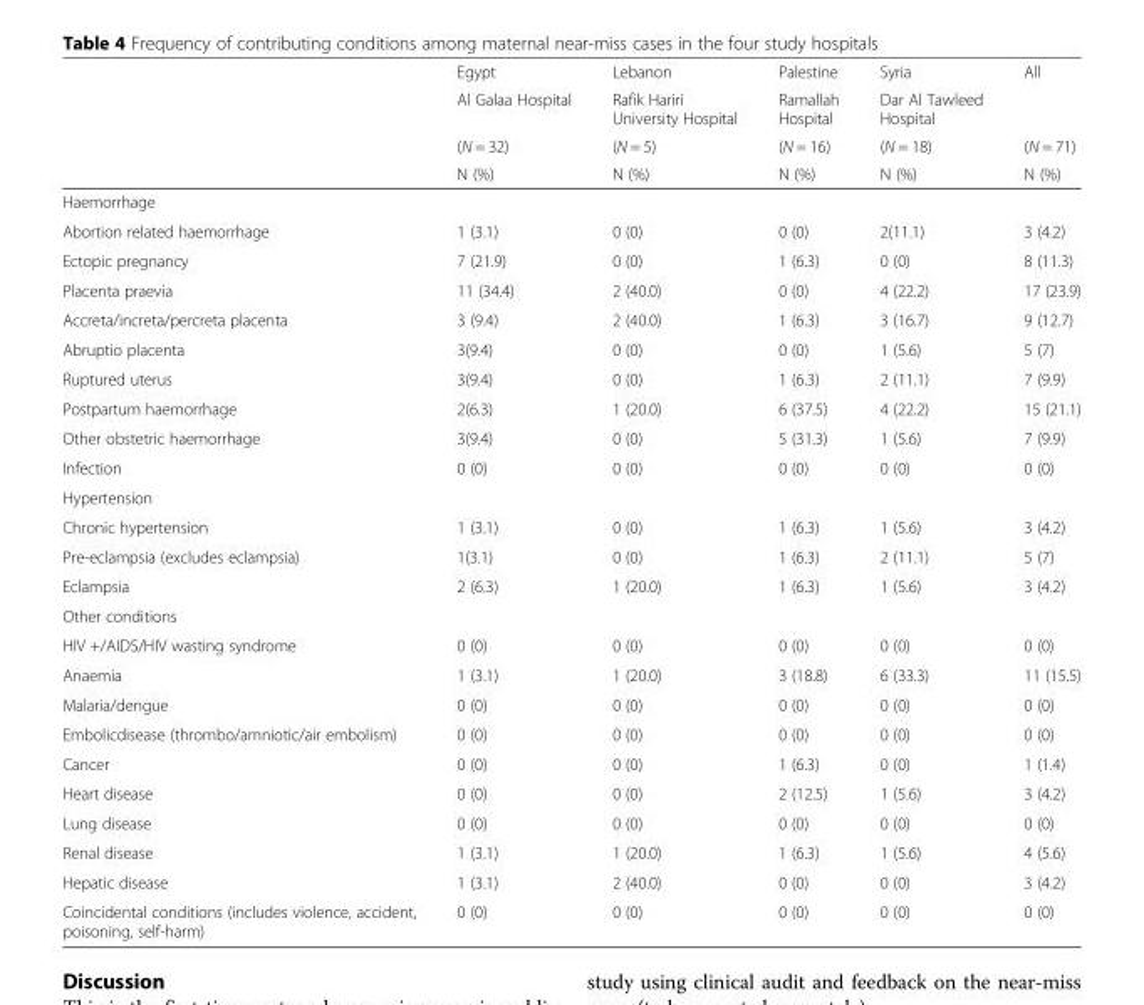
<table><thead><tr><td rowspan="4"></td><td rowspan="4">Egypt Al Galaa Hospital (N = 32) N (%)</td><td rowspan="4">Lebanon Rafik Hariri University Hospital (N = 5) N (%)</td><td rowspan="4">Palestine Ramallah Hospital (N = 16) N (%)</td><td rowspan="4">Syria Dar Al Tawleed Hospital (N = 18) N (%)</td><td rowspan="4">All (N = 71) N (%)</td></tr><tr></tr><tr></tr><tr></tr></thead><tbody><tr><td colspan="6">Haemorrhage</td></tr><tr><td>Abortion related haemorrhage</td><td>1 (3.1)</td><td>0 (0)</td><td>0 (0)</td><td>2(11.1)</td><td>3 (4.2)</td></tr><tr><td>Ectopic pregnancy</td><td>7 (21.9)</td><td>0 (0)</td><td>1 (6.3)</td><td>0 (0)</td><td>8 (11.3)</td></tr><tr><td>Placenta praevia</td><td>11 (34.4)</td><td>2 (40.0)</td><td>0 (0)</td><td>4 (22.2)</td><td>17 (23.9)</td></tr><tr><td>Accreta/increta/percreta placenta</td><td>3 (9.4)</td><td>2 (40.0)</td><td>1 (6.3)</td><td>3 (16.7)</td><td>9 (12.7)</td></tr><tr><td>Abruptio placenta</td><td>3(9.4)</td><td>0 (0)</td><td>0 (0)</td><td>1 (5.6)</td><td>5 (7)</td></tr><tr><td>Ruptured uterus</td><td>3(9.4)</td><td>0 (0)</td><td>1 (6.3)</td><td>2 (11.1)</td><td>7 (9.9)</td></tr><tr><td>Postpartum haemorrhage</td><td>2(6.3)</td><td>1 (20.0)</td><td>6 (37.5)</td><td>4 (22.2)</td><td>15 (21.1)</td></tr><tr><td>Other obstetric haemorrhage</td><td>3(9.4)</td><td>0 (0)</td><td>5 (31.3)</td><td>1 (5.6)</td><td>7 (9.9)</td></tr><tr><td>Infection</td><td>0 (0)</td><td>0 (0)</td><td>0 (0)</td><td>0 (0)</td><td>0 (0)</td></tr><tr><td colspan="6">Hypertension</td></tr><tr><td>Chronic hypertension</td><td>1 (3.1)</td><td>0 (0)</td><td>1 (6.3)</td><td>1 (5.6)</td><td>3 (4.2)</td></tr><tr><td>Pre-eclampsia (excludes eclampsia)</td><td>1(3.1)</td><td>0 (0)</td><td>1 (6.3)</td><td>2 (11.1)</td><td>5 (7)</td></tr><tr><td>Eclampsia</td><td>2 (6.3)</td><td>1 (20.0)</td><td>1 (6.3)</td><td>1 (5.6)</td><td>3 (4.2)</td></tr><tr><td colspan="6">Other conditions</td></tr><tr><td>HIV +/AIDS/HIV wasting syndrome</td><td>0 (0)</td><td>0 (0)</td><td>0 (0)</td><td>0 (0)</td><td>0 (0)</td></tr><tr><td>Anaemia</td><td>1 (3.1)</td><td>1 (20.0)</td><td>3 (18.8)</td><td>6 (33.3)</td><td>11 (15.5)</td></tr><tr><td>Malaria/dengue</td><td>0 (0)</td><td>0 (0)</td><td>0 (0)</td><td>0 (0)</td><td>0 (0)</td></tr><tr><td>Embolicdisease (thrombo/amniotic/air embolism)</td><td>0 (0)</td><td>0 (0)</td><td>0 (0)</td><td>0 (0)</td><td>0 (0)</td></tr><tr><td>Cancer</td><td>0 (0)</td><td>0 (0)</td><td>1 (6.3)</td><td>0 (0)</td><td>1 (1.4)</td></tr><tr><td>Heart disease</td><td>0 (0)</td><td>0 (0)</td><td>2 (12.5)</td><td>1 (5.6)</td><td>3 (4.2)</td></tr><tr><td>Lung disease</td><td>0 (0)</td><td>0 (0)</td><td>0 (0)</td><td>0 (0)</td><td>0 (0)</td></tr><tr><td>Renal disease</td><td>1 (3.1)</td><td>1 (20.0)</td><td>1 (6.3)</td><td>1 (5.6)</td><td>4 (5.6)</td></tr><tr><td>Hepatic disease</td><td>1 (3.1)</td><td>2 (40.0)</td><td>0 (0)</td><td>0 (0)</td><td>3 (4.2)</td></tr><tr><td>Coincidental conditions (includes violence, accident, poisoning, self-harm)</td><td>0 (0)</td><td>0 (0)</td><td>0 (0)</td><td>0 (0)</td><td>0 (0)</td></tr></tbody></table>